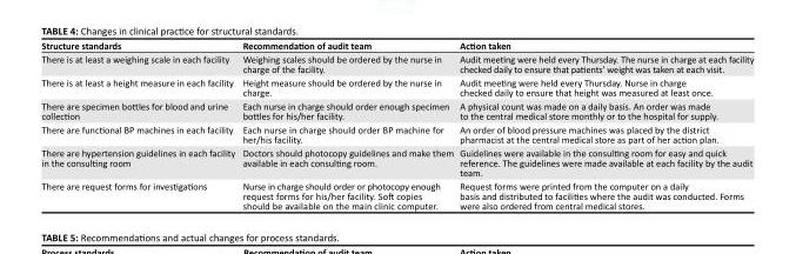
<table><thead><tr><td>Structure standards</td><td>Recommendation of audit team</td><td>Action taken</td></tr></thead><tbody><tr><td>There is at least a weighing scale in each facility</td><td>Weighing scales should be ordered by the nurse in charge of the facility.</td><td>Audit meeting were held every Thursday. The nurse in charge at each facility checked daily to ensure that patients’ weight was taken at each visit.</td></tr><tr><td>There is at least a height measure in each facility</td><td>Height measure should be ordered by the nurse in charge.</td><td>Audit meeting were held every Thursday. Nurse in charge checked daily to ensure that height was measured at least once.</td></tr><tr><td>There are specimen bottles for blood and urine collection</td><td>Each nurse in charge should order enough specimen bottles for his/her facility.</td><td>A physical count was made on a daily basis. An order was made to the central medical store monthly or to the hospital for supply.</td></tr><tr><td>There are functional BP machines in each facility</td><td>Each nurse in charge should order BP machine for her/his facility.</td><td>An order of blood pressure machines was placed by the district pharmacist at the central medical store as part of her action plan.</td></tr><tr><td>There are hypertension guidelines in each facility in the consulting room</td><td>Doctors should photocopy guidelines and make them available in each consulting room.</td><td>Guidelines were available in the consulting room for easy and quick reference. The guidelines were made available at each facility by the audit team.</td></tr><tr><td>There are request forms for investigations</td><td>Nurse in charge should order or photocopy enough request forms for his/her facility. Soft copies should be available on the main clinic computer.</td><td>Request forms were printed from the computer on a daily basis and distributed to facilities where the audit was conducted. Forms were also ordered from central medical stores.</td></tr></tbody></table>